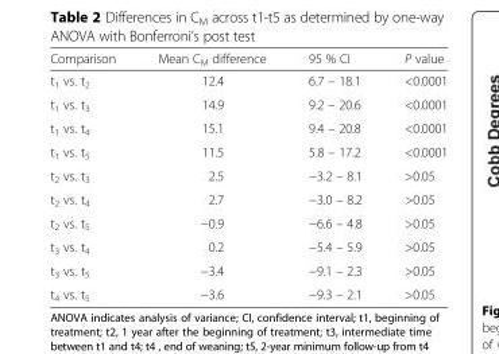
<table><thead><tr><td>Comparison</td><td>Mean C<sub>M</sub> difference</td><td>95 % CI</td><td>P value</td></tr></thead><tbody><tr><td>t<sub>1</sub> vs. t<sub>2</sub></td><td>12.4</td><td>6.7 – 18.1</td><td>&lt;0.0001</td></tr><tr><td>t<sub>1</sub> vs. t<sub>3</sub></td><td>14.9</td><td>9.2 – 20.6</td><td>&lt;0.0001</td></tr><tr><td>t<sub>1</sub> vs. t<sub>4</sub></td><td>15.1</td><td>9.4 – 20.8</td><td>&lt;0.0001</td></tr><tr><td>t<sub>1</sub> vs. t<sub>5</sub></td><td>11.5</td><td>5.8 – 17.2</td><td>&lt;0.0001</td></tr><tr><td>t<sub>2</sub> vs. t<sub>3</sub></td><td>2.5</td><td>−3.2 – 8.1</td><td>&gt;0.05</td></tr><tr><td>t<sub>2</sub> vs. t<sub>4</sub></td><td>2.7</td><td>−3.0 – 8.2</td><td>&gt;0.05</td></tr><tr><td>t<sub>2</sub> vs. t<sub>5</sub></td><td>−0.9</td><td>−6.6 – 4.8</td><td>&gt;0.05</td></tr><tr><td>t<sub>3</sub> vs. t<sub>4</sub></td><td>0.2</td><td>−5.4 – 5.9</td><td>&gt;0.05</td></tr><tr><td>t<sub>3</sub> vs. t<sub>5</sub></td><td>−3.4</td><td>−9.1 – 2.3</td><td>&gt;0.05</td></tr><tr><td>t<sub>4</sub> vs. t<sub>5</sub></td><td>−3.6</td><td>−9.3 – 2.1</td><td>&gt;0.05</td></tr></tbody></table>